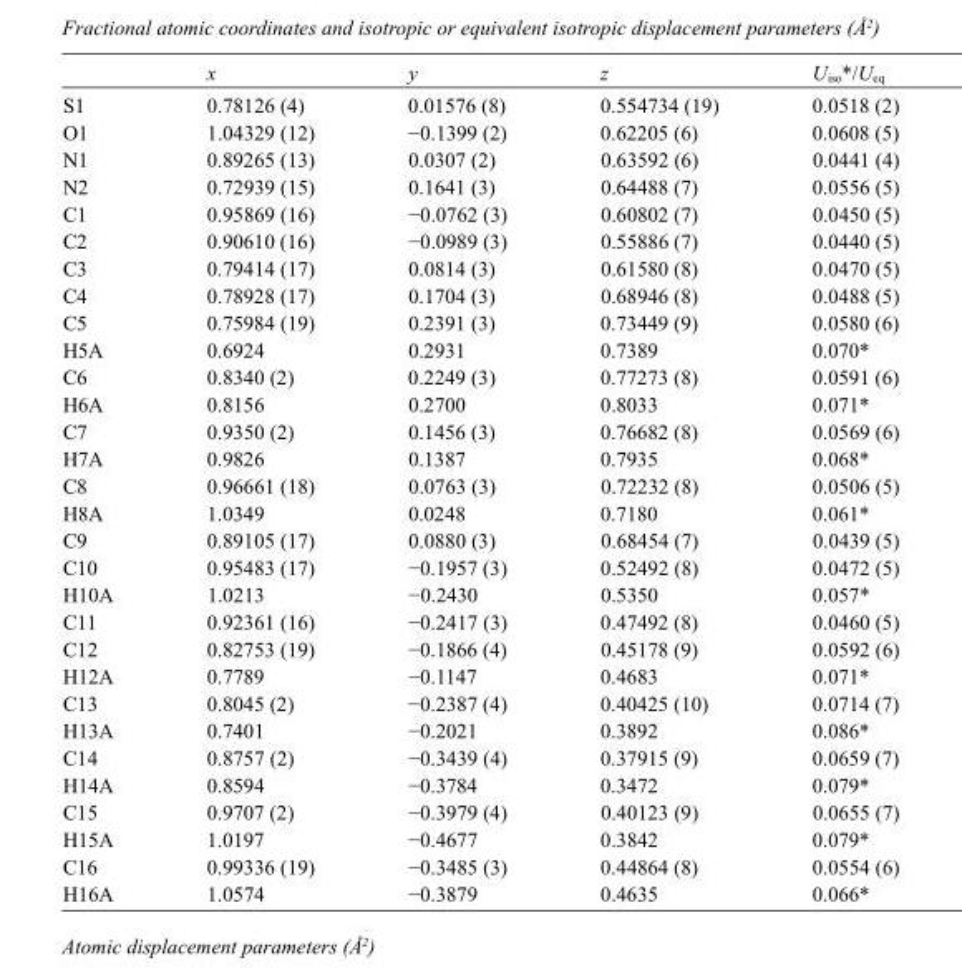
<table><thead><tr><td></td><td>x</td><td>y</td><td>z</td><td>U<sub>iso</sub>*/U<sub>eq</sub></td></tr></thead><tbody><tr><td>S1</td><td>0.78126 (4)</td><td>0.01576 (8)</td><td>0.554734 (19)</td><td>0.0518 (2)</td></tr><tr><td>O1</td><td>1.04329 (12)</td><td>−0.1399 (2)</td><td>0.62205 (6)</td><td>0.0608 (5)</td></tr><tr><td>N1</td><td>0.89265 (13)</td><td>0.0307 (2)</td><td>0.63592 (6)</td><td>0.0441 (4)</td></tr><tr><td>N2</td><td>0.72939 (15)</td><td>0.1641 (3)</td><td>0.64488 (7)</td><td>0.0556 (5)</td></tr><tr><td>C1</td><td>0.95869 (16)</td><td>−0.0762 (3)</td><td>0.60802 (7)</td><td>0.0450 (5)</td></tr><tr><td>C2</td><td>0.90610 (16)</td><td>−0.0989 (3)</td><td>0.55886 (7)</td><td>0.0440 (5)</td></tr><tr><td>C3</td><td>0.79414 (17)</td><td>0.0814 (3)</td><td>0.61580 (8)</td><td>0.0470 (5)</td></tr><tr><td>C4</td><td>0.78928 (17)</td><td>0.1704 (3)</td><td>0.68946 (8)</td><td>0.0488 (5)</td></tr><tr><td>C5</td><td>0.75984 (19)</td><td>0.2391 (3)</td><td>0.73449 (9)</td><td>0.0580 (6)</td></tr><tr><td>H5A</td><td>0.6924</td><td>0.2931</td><td>0.7389</td><td>0.070*</td></tr><tr><td>C6</td><td>0.8340 (2)</td><td>0.2249 (3)</td><td>0.77273 (8)</td><td>0.0591 (6)</td></tr><tr><td>H6A</td><td>0.8156</td><td>0.2700</td><td>0.8033</td><td>0.071*</td></tr><tr><td>C7</td><td>0.9350 (2)</td><td>0.1456 (3)</td><td>0.76682 (8)</td><td>0.0569 (6)</td></tr><tr><td>H7A</td><td>0.9826</td><td>0.1387</td><td>0.7935</td><td>0.068*</td></tr><tr><td>C8</td><td>0.96661 (18)</td><td>0.0763 (3)</td><td>0.72232 (8)</td><td>0.0506 (5)</td></tr><tr><td>H8A</td><td>1.0349</td><td>0.0248</td><td>0.7180</td><td>0.061*</td></tr><tr><td>C9</td><td>0.89105 (17)</td><td>0.0880 (3)</td><td>0.68454 (7)</td><td>0.0439 (5)</td></tr><tr><td>C10</td><td>0.95483 (17)</td><td>−0.1957 (3)</td><td>0.52492 (8)</td><td>0.0472 (5)</td></tr><tr><td>H10A</td><td>1.0213</td><td>−0.2430</td><td>0.5350</td><td>0.057*</td></tr><tr><td>C11</td><td>0.92361 (16)</td><td>−0.2417 (3)</td><td>0.47492 (8)</td><td>0.0460 (5)</td></tr><tr><td>C12</td><td>0.82753 (19)</td><td>−0.1866 (4)</td><td>0.45178 (9)</td><td>0.0592 (6)</td></tr><tr><td>H12A</td><td>0.7789</td><td>−0.1147</td><td>0.4683</td><td>0.071*</td></tr><tr><td>C13</td><td>0.8045 (2)</td><td>−0.2387 (4)</td><td>0.40425 (10)</td><td>0.0714 (7)</td></tr><tr><td>H13A</td><td>0.7401</td><td>−0.2021</td><td>0.3892</td><td>0.086*</td></tr><tr><td>C14</td><td>0.8757 (2)</td><td>−0.3439 (4)</td><td>0.37915 (9)</td><td>0.0659 (7)</td></tr><tr><td>H14A</td><td>0.8594</td><td>−0.3784</td><td>0.3472</td><td>0.079*</td></tr><tr><td>C15</td><td>0.9707 (2)</td><td>−0.3979 (4)</td><td>0.40123 (9)</td><td>0.0655 (7)</td></tr><tr><td>H15A</td><td>1.0197</td><td>−0.4677</td><td>0.3842</td><td>0.079*</td></tr><tr><td>C16</td><td>0.99336 (19)</td><td>−0.3485 (3)</td><td>0.44864 (8)</td><td>0.0554 (6)</td></tr><tr><td>H16A</td><td>1.0574</td><td>−0.3879</td><td>0.4635</td><td>0.066*</td></tr></tbody></table>